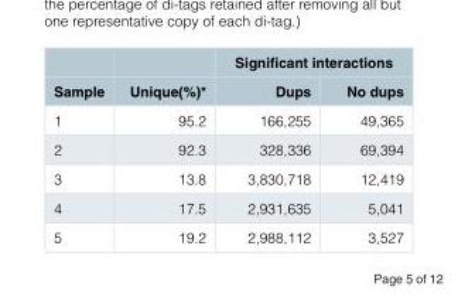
<table><thead><tr><td rowspan="2">Sample</td><td rowspan="2">Unique(%)*</td><td colspan="2">Significant interactions</td></tr><tr><td>Dups</td><td>No dups</td></tr></thead><tbody><tr><td>1</td><td>95.2</td><td>166,255</td><td>49,365</td></tr><tr><td>2</td><td>92.3</td><td>328,336</td><td>69,394</td></tr><tr><td>3</td><td>13.8</td><td>3,830,718</td><td>12,419</td></tr><tr><td>4</td><td>17.5</td><td>2,931,635</td><td>5,041</td></tr><tr><td>5</td><td>19.2</td><td>2,988,112</td><td>3,527</td></tr></tbody></table>